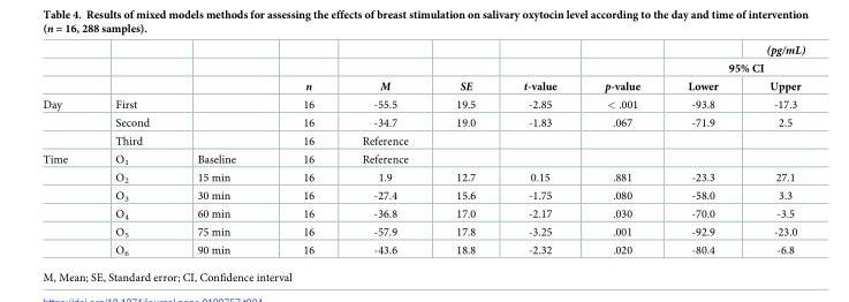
<table><thead><tr><td rowspan="3"></td><td rowspan="3"></td><td rowspan="3"></td><td rowspan="3">n</td><td rowspan="3">M</td><td rowspan="3">SE</td><td rowspan="3">t-value</td><td rowspan="3">p-value</td><td></td><td>(pg/mL)</td></tr><tr><td colspan="2">95% CI</td></tr><tr><td>Lower</td><td>Upper</td></tr></thead><tbody><tr><td rowspan="3">Day</td><td>First</td><td></td><td>16</td><td>-55.5</td><td>19.5</td><td>-2.85</td><td>&lt; .001</td><td>-93.8</td><td>-17.3</td></tr><tr><td>Second</td><td></td><td>16</td><td>-34.7</td><td>19.0</td><td>-1.83</td><td>.067</td><td>-71.9</td><td>2.5</td></tr><tr><td>Third</td><td></td><td>16</td><td>Reference</td><td></td><td></td><td></td><td></td><td></td></tr><tr><td rowspan="6">Time</td><td>O<sub>1</sub></td><td>Baseline</td><td>16</td><td>Reference</td><td></td><td></td><td></td><td></td><td></td></tr><tr><td>O<sub>2</sub></td><td>15 min</td><td>16</td><td>1.9</td><td>12.7</td><td>0.15</td><td>.881</td><td>-23.3</td><td>27.1</td></tr><tr><td>O<sub>3</sub></td><td>30 min</td><td>16</td><td>-27.4</td><td>15.6</td><td>-1.75</td><td>.080</td><td>-58.0</td><td>3.3</td></tr><tr><td>O<sub>4</sub></td><td>60 min</td><td>16</td><td>-36.8</td><td>17.0</td><td>-2.17</td><td>.030</td><td>-70.0</td><td>-3.5</td></tr><tr><td>O<sub>5</sub></td><td>75 min</td><td>16</td><td>-57.9</td><td>17.8</td><td>-3.25</td><td>.001</td><td>-92.9</td><td>-23.0</td></tr><tr><td>O<sub>6</sub></td><td>90 min</td><td>16</td><td>-43.6</td><td>18.8</td><td>-2.32</td><td>.020</td><td>-80.4</td><td>-6.8</td></tr></tbody></table>